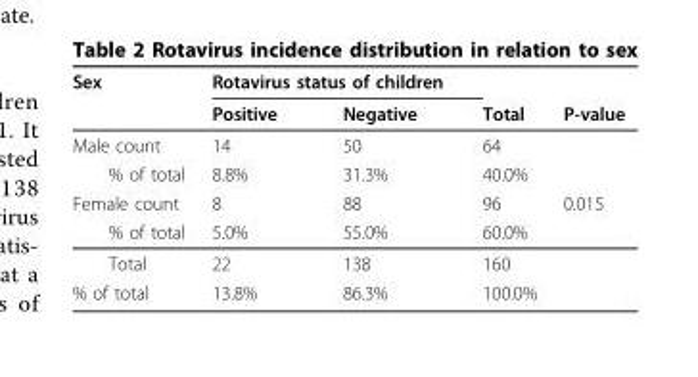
<table><thead><tr><td rowspan="2">Sex</td><td colspan="2">Rotavirus status of children</td><td rowspan="2">Total</td><td rowspan="2">P-value</td></tr><tr><td>Positive</td><td>Negative</td></tr></thead><tbody><tr><td>Male count</td><td>14</td><td>50</td><td>64</td><td></td></tr><tr><td>% of total</td><td>8.8%</td><td>31.3%</td><td>40.0%</td><td></td></tr><tr><td>Female count</td><td>8</td><td>88</td><td>96</td><td>0.015</td></tr><tr><td>% of total</td><td>5.0%</td><td>55.0%</td><td>60.0%</td><td></td></tr><tr><td>Total</td><td>22</td><td>138</td><td>160</td><td></td></tr><tr><td>% of total</td><td>13.8%</td><td>86.3%</td><td>100.0%</td><td></td></tr></tbody></table>